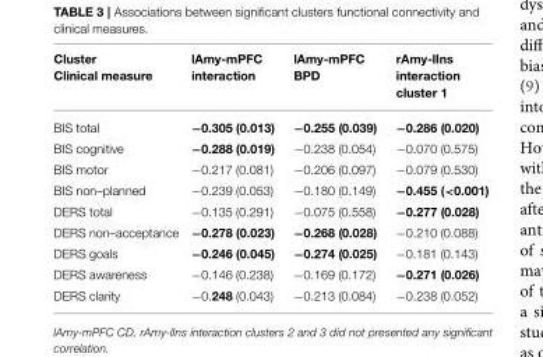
<table><thead><tr><td>Cluster Clinical measure</td><td>lAmy-mPFC interaction</td><td>lAmy-mPFC BPD</td><td>rAmy-lIns interaction cluster 1</td></tr></thead><tbody><tr><td>BIS total</td><td>−0.305 (0.013)</td><td>−0.255 (0.039)</td><td>−0.286 (0.020)</td></tr><tr><td>BIS cognitive</td><td>−0.288 (0.019)</td><td>−0.238 (0.054)</td><td>−0.070 (0.575)</td></tr><tr><td>BIS motor</td><td>−0.217 (0.081)</td><td>−0.206 (0.097)</td><td>−0.079 (0.530)</td></tr><tr><td>BIS non–planned</td><td>−0.239 (0.053)</td><td>−0.180 (0.149)</td><td>−0.455 (&lt;0.001)</td></tr><tr><td>DERS total</td><td>−0.135 (0.291)</td><td>−0.075 (0.558)</td><td>−0.277 (0.028)</td></tr><tr><td>DERS non–acceptance</td><td>−0.278 (0.023)</td><td>−0.268 (0.028)</td><td>−0.210 (0.088)</td></tr><tr><td>DERS goals</td><td>−0.246 (0.045)</td><td>−0.274 (0.025)</td><td>−0.181 (0.143)</td></tr><tr><td>DERS awareness</td><td>−0.146 (0.238)</td><td>−0.169 (0.172)</td><td>−0.271 (0.026)</td></tr><tr><td>DERS clarity</td><td>−0.248 (0.043)</td><td>−0.213 (0.084)</td><td>−0.238 (0.052)</td></tr></tbody></table>